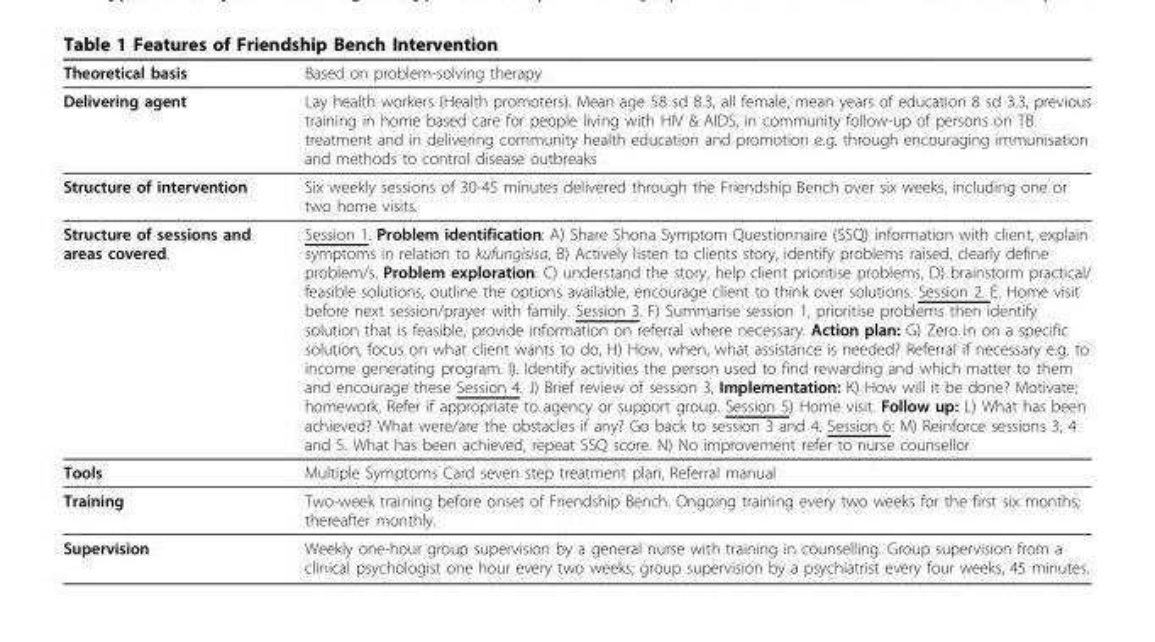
<table><thead><tr><td>Theoretical basis</td><td>Based on problem-solving therapy</td></tr></thead><tbody><tr><td>Delivering agent</td><td>Lay health workers (Health promoters). Mean age 58 sd 8.3, all female, mean years of education 8 sd 3.3, previous training in home based care for people living with HIV &amp; AIDS, in community follow-up of persons on TB treatment and in delivering community health education and promotion e.g. through encouraging immunisation and methods to control disease outbreaks</td></tr><tr><td>Structure of intervention</td><td>Six weekly sessions of 30-45 minutes delivered through the Friendship Bench over six weeks, including one or two home visits.</td></tr><tr><td>Structure of sessions and areas covered.</td><td>Session 1. Problem identification: A) Share Shona Symptom Questionnaire (SSQ) information with client, explain symptoms in relation to kufungisisa, B) Actively listen to clients story, identify problems raised, clearly define problem/s. Problem exploration: C) understand the story, help client prioritise problems, D) brainstorm practical/ feasible solutions, outline the options available, encourage client to think over solutions. Session 2. E. Home visit before next session/prayer with family. Session 3. F) Summarise session 1, prioritise problems then identify solution that is feasible, provide information on referral where necessary. Action plan: G) Zero in on a specific solution, focus on what client wants to do, H) How, when, what assistance is needed? Referral if necessary e.g. to income generating program. I). Identify activities the person used to find rewarding and which matter to them and encourage these Session 4. J) Brief review of session 3, Implementation: K) How will it be done? Motivate; homework, Refer if appropriate to agency or support group. Session 5) Home visit. Follow up: L) What has been achieved? What were/are the obstacles if any? Go back to session 3 and 4. Session 6: M) Reinforce sessions 3, 4 and 5. What has been achieved, repeat SSQ score. N) No improvement refer to nurse counsellor</td></tr><tr><td>Tools</td><td>Multiple Symptoms Card seven step treatment plan, Referral manual</td></tr><tr><td>Training</td><td>Two-week training before onset of Friendship Bench. Ongoing training every two weeks for the first six months; thereafter monthly.</td></tr><tr><td>Supervision</td><td>Weekly one-hour group supervision by a general nurse with training in counselling. Group supervision from a clinical psychologist one hour every two weeks; group supervision by a psychiatrist every four weeks, 45 minutes.</td></tr></tbody></table>